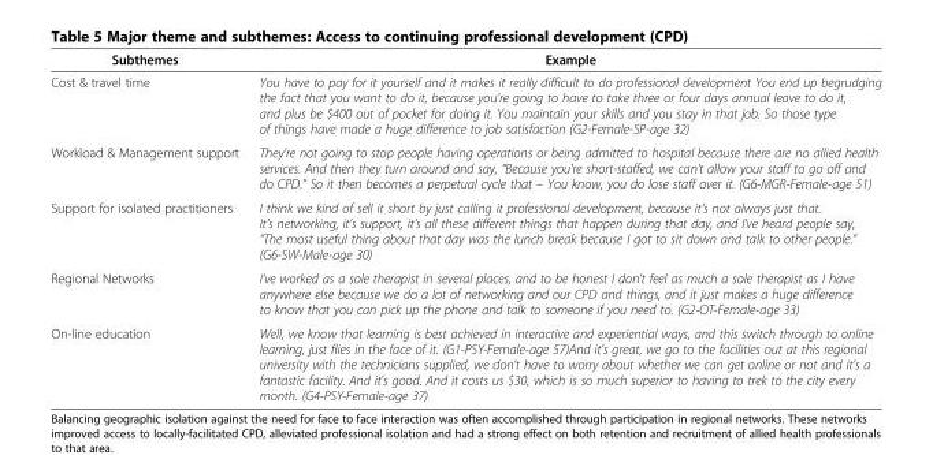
<table><thead><tr><td>Subthemes</td><td>Example</td></tr></thead><tbody><tr><td>Cost &amp; travel time</td><td>You have to pay for it yourself and it makes it really difficult to do professional development You end up begrudging the fact that you want to do it, because you&#x27;re going to have to take three or four days annual leave to do it, and plus be $400 out of pocket for doing it. You maintain your skills and you stay in that job. So those type of things have made a huge difference to job satisfaction (G2-Female-SP-age 32)</td></tr><tr><td>Workload &amp; Management support</td><td>They&#x27;re not going to stop people having operations or being admitted to hospital because there are no allied health services. And then they turn around and say, “Because you&#x27;re short-staffed, we can&#x27;t allow your staff to go off and do CPD.” So it then becomes a perpetual cycle that – You know, you do lose staff over it. (G6-MGR-Female-age 51)</td></tr><tr><td>Support for isolated practitioners</td><td>I think we kind of sell it short by just calling it professional development, because it&#x27;s not always just that. It&#x27;s networking, it&#x27;s support, it&#x27;s all these different things that happen during that day, and I&#x27;ve heard people say, “The most useful thing about that day was the lunch break because I got to sit down and talk to other people.” (G6-SW-Male-age 30)</td></tr><tr><td>Regional Networks</td><td>I&#x27;ve worked as a sole therapist in several places, and to be honest I don&#x27;t feel as much a sole therapist as I have anywhere else because we do a lot of networking and our CPD and things, and it just makes a huge difference to know that you can pick up the phone and talk to someone if you need to. (G2-OT-Female-age 33)</td></tr><tr><td>On-line education</td><td>Well, we know that learning is best achieved in interactive and experiential ways, and this switch through to online learning, just flies in the face of it. (G1-PSY-Female-age 57)And it&#x27;s great, we go to the facilities out at this regional university with the technicians supplied, we don&#x27;t have to worry about whether we can get online or not and it&#x27;s a fantastic facility. And it&#x27;s good. And it costs us $30, which is so much superior to having to trek to the city every month. (G4-PSY-Female-age 37)</td></tr></tbody></table>